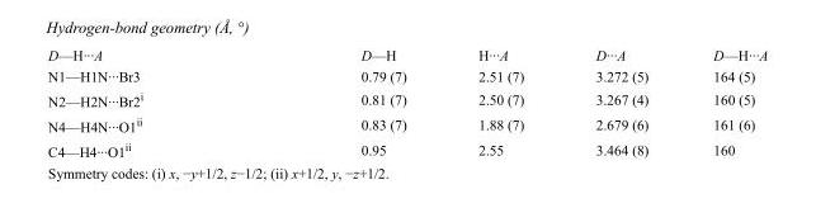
<table><tbody><tr><td>D—H···A</td><td>D—H</td><td>H···A</td><td>D···A</td><td>D—H···A</td></tr><tr><td>N1—H1N···Br3</td><td>0.79 (7)</td><td>2.51 (7)</td><td>3.272 (5)</td><td>164 (5)</td></tr><tr><td>N2—H2N···Br2<sup>i</sup></td><td>0.81 (7)</td><td>2.50 (7)</td><td>3.267 (4)</td><td>160 (5)</td></tr><tr><td>N4—H4N···O1<sup>ii</sup></td><td>0.83 (7)</td><td>1.88 (7)</td><td>2.679 (6)</td><td>161 (6)</td></tr><tr><td>C4—H4···O1<sup>ii</sup></td><td>0.95</td><td>2.55</td><td>3.464 (8)</td><td>160</td></tr></tbody></table>